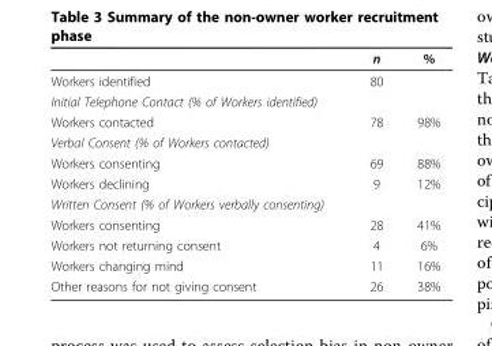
<table><thead><tr><td></td><td>n</td><td>%</td></tr></thead><tbody><tr><td>Workers identified</td><td>80</td><td></td></tr><tr><td colspan="3">Initial Telephone Contact (% of Workers identified)</td></tr><tr><td>Workers contacted</td><td>78</td><td>98%</td></tr><tr><td colspan="3">Verbal Consent (% of Workers contacted)</td></tr><tr><td>Workers consenting</td><td>69</td><td>88%</td></tr><tr><td>Workers declining</td><td>9</td><td>12%</td></tr><tr><td colspan="3">Written Consent (% of Workers verbally consenting)</td></tr><tr><td>Workers consenting</td><td>28</td><td>41%</td></tr><tr><td>Workers not returning consent</td><td>4</td><td>6%</td></tr><tr><td>Workers changing mind</td><td>11</td><td>16%</td></tr><tr><td>Other reasons for not giving consent</td><td>26</td><td>38%</td></tr></tbody></table>